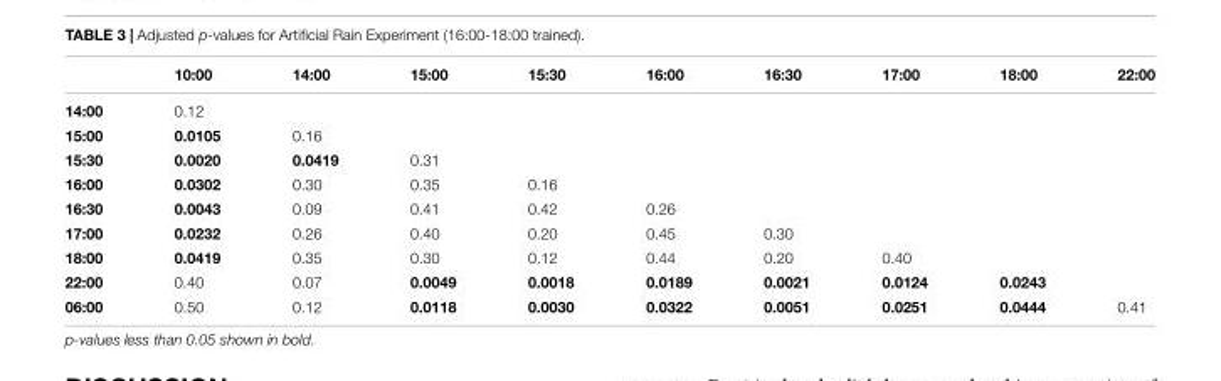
<table><thead><tr><td></td><td>10:00</td><td>14:00</td><td>15:00</td><td>15:30</td><td>16:00</td><td>16:30</td><td>17:00</td><td>18:00</td><td>22:00</td></tr></thead><tbody><tr><td>14:00</td><td>0.12</td><td></td><td></td><td></td><td></td><td></td><td></td><td></td><td></td></tr><tr><td>15:00</td><td>0.0105</td><td>0.16</td><td></td><td></td><td></td><td></td><td></td><td></td><td></td></tr><tr><td>15:30</td><td>0.0020</td><td>0.0419</td><td>0.31</td><td></td><td></td><td></td><td></td><td></td><td></td></tr><tr><td>16:00</td><td>0.0302</td><td>0.30</td><td>0.35</td><td>0.16</td><td></td><td></td><td></td><td></td><td></td></tr><tr><td>16:30</td><td>0.0043</td><td>0.09</td><td>0.41</td><td>0.42</td><td>0.26</td><td></td><td></td><td></td><td></td></tr><tr><td>17:00</td><td>0.0232</td><td>0.26</td><td>0.40</td><td>0.20</td><td>0.45</td><td>0.30</td><td></td><td></td><td></td></tr><tr><td>18:00</td><td>0.0419</td><td>0.35</td><td>0.30</td><td>0.12</td><td>0.44</td><td>0.20</td><td>0.40</td><td></td><td></td></tr><tr><td>22:00</td><td>0.40</td><td>0.07</td><td>0.0049</td><td>0.0018</td><td>0.0189</td><td>0.0021</td><td>0.0124</td><td>0.0243</td><td></td></tr><tr><td>06:00</td><td>0.50</td><td>0.12</td><td>0.0118</td><td>0.0030</td><td>0.0322</td><td>0.0051</td><td>0.0251</td><td>0.0444</td><td>0.41</td></tr></tbody></table>